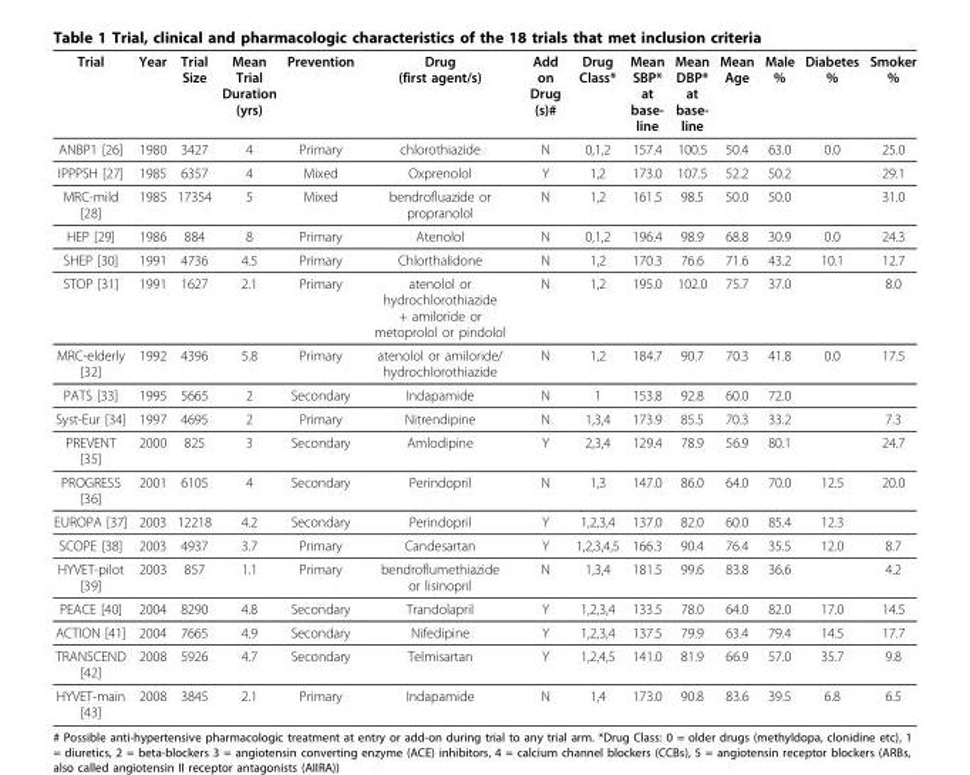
<table><thead><tr><td>Trial</td><td>Year</td><td>Trial Size</td><td>Mean Trial Duration (yrs)</td><td>Prevention</td><td>Drug (first agent/s)</td><td>Add on Drug (s)#</td><td>Drug Class*</td><td>Mean SBP* at base- line</td><td>Mean DBP* at base- line</td><td>Mean Age</td><td>Male %</td><td>Diabetes %</td><td>Smoker %</td></tr></thead><tbody><tr><td>ANBP1 [26]</td><td>1980</td><td>3427</td><td>4</td><td>Primary</td><td>chlorothiazide</td><td>N</td><td>0,1,2</td><td>157.4</td><td>100.5</td><td>50.4</td><td>63.0</td><td>0.0</td><td>25.0</td></tr><tr><td>IPPPSH [27]</td><td>1985</td><td>6357</td><td>4</td><td>Mixed</td><td>Oxprenolol</td><td>Y</td><td>1,2</td><td>173.0</td><td>107.5</td><td>52.2</td><td>50.2</td><td></td><td>29.1</td></tr><tr><td>MRC-mild [28]</td><td>1985</td><td>17354</td><td>5</td><td>Mixed</td><td>bendrofluazide or propranolol</td><td>N</td><td>1,2</td><td>161.5</td><td>98.5</td><td>50.0</td><td>50.0</td><td></td><td>31.0</td></tr><tr><td>HEP [29]</td><td>1986</td><td>884</td><td>8</td><td>Primary</td><td>Atenolol</td><td>N</td><td>0,1,2</td><td>196.4</td><td>98.9</td><td>68.8</td><td>30.9</td><td>0.0</td><td>24.3</td></tr><tr><td>SHEP [30]</td><td>1991</td><td>4736</td><td>4.5</td><td>Primary</td><td>Chlorthalidone</td><td>N</td><td>1,2</td><td>170.3</td><td>76.6</td><td>71.6</td><td>43.2</td><td>10.1</td><td>12.7</td></tr><tr><td>STOP [31]</td><td>1991</td><td>1627</td><td>2.1</td><td>Primary</td><td>atenolol or hydrochlorothiazide + amiloride or metoprolol or pindolol</td><td>N</td><td>1,2</td><td>195.0</td><td>102.0</td><td>75.7</td><td>37.0</td><td></td><td>8.0</td></tr><tr><td>MRC-elderly [32]</td><td>1992</td><td>4396</td><td>5.8</td><td>Primary</td><td>atenolol or amiloride/ hydrochlorothiazide</td><td>N</td><td>1,2</td><td>184.7</td><td>90.7</td><td>70.3</td><td>41.8</td><td>0.0</td><td>17.5</td></tr><tr><td>PATS [33]</td><td>1995</td><td>5665</td><td>2</td><td>Secondary</td><td>Indapamide</td><td>N</td><td>1</td><td>153.8</td><td>92.8</td><td>60.0</td><td>72.0</td><td></td><td></td></tr><tr><td>Syst-Eur [34]</td><td>1997</td><td>4695</td><td>2</td><td>Primary</td><td>Nitrendipine</td><td>N</td><td>1,3,4</td><td>173.9</td><td>85.5</td><td>70.3</td><td>33.2</td><td></td><td>7.3</td></tr><tr><td>PREVENT [35]</td><td>2000</td><td>825</td><td>3</td><td>Secondary</td><td>Amlodipine</td><td>Y</td><td>2,3,4</td><td>129.4</td><td>78.9</td><td>56.9</td><td>80.1</td><td></td><td>24.7</td></tr><tr><td>PROGRESS [36]</td><td>2001</td><td>6105</td><td>4</td><td>Secondary</td><td>Perindopril</td><td>N</td><td>1,3</td><td>147.0</td><td>86.0</td><td>64.0</td><td>70.0</td><td>12.5</td><td>20.0</td></tr><tr><td>EUROPA [37]</td><td>2003</td><td>12218</td><td>4.2</td><td>Secondary</td><td>Perindopril</td><td>Y</td><td>1,2,3,4</td><td>137.0</td><td>82.0</td><td>60.0</td><td>85.4</td><td>12.3</td><td></td></tr><tr><td>SCOPE [38]</td><td>2003</td><td>4937</td><td>3.7</td><td>Primary</td><td>Candesartan</td><td>Y</td><td>1,2,3,4,5</td><td>166.3</td><td>90.4</td><td>76.4</td><td>35.5</td><td>12.0</td><td>8.7</td></tr><tr><td>HYVET-pilot [39]</td><td>2003</td><td>857</td><td>1.1</td><td>Primary</td><td>bendroflumethiazide or lisinopril</td><td>N</td><td>1,3,4</td><td>181.5</td><td>99.6</td><td>83.8</td><td>36.6</td><td></td><td>4.2</td></tr><tr><td>PEACE [40]</td><td>2004</td><td>8290</td><td>4.8</td><td>Secondary</td><td>Trandolapril</td><td>Y</td><td>1,2,3,4</td><td>133.5</td><td>78.0</td><td>64.0</td><td>82.0</td><td>17.0</td><td>14.5</td></tr><tr><td>ACTION [41]</td><td>2004</td><td>7665</td><td>4.9</td><td>Secondary</td><td>Nifedipine</td><td>Y</td><td>1,2,3,4</td><td>137.5</td><td>79.9</td><td>63.4</td><td>79.4</td><td>14.5</td><td>17.7</td></tr><tr><td>TRANSCEND [42]</td><td>2008</td><td>5926</td><td>4.7</td><td>Secondary</td><td>Telmisartan</td><td>Y</td><td>1,2,4,5</td><td>141.0</td><td>81.9</td><td>66.9</td><td>57.0</td><td>35.7</td><td>9.8</td></tr><tr><td>HYVET-main [43]</td><td>2008</td><td>3845</td><td>2.1</td><td>Primary</td><td>Indapamide</td><td>N</td><td>1,4</td><td>173.0</td><td>90.8</td><td>83.6</td><td>39.5</td><td>6.8</td><td>6.5</td></tr></tbody></table>